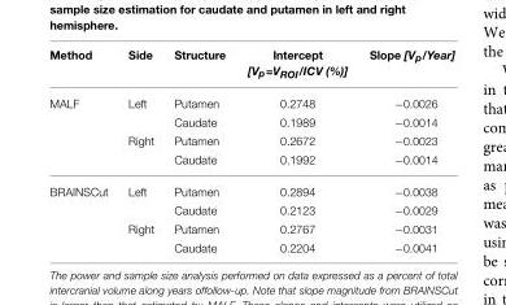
<table><thead><tr><td>Method</td><td>Side</td><td>Structure</td><td>Intercept [V<sub>p</sub>=V<sub>ROI</sub>/ICV (%)]</td><td>Slope [V<sub>p</sub>/Year]</td></tr></thead><tbody><tr><td rowspan="4">MALF</td><td>Left</td><td>Putamen</td><td>0.2748</td><td>−0.0026</td></tr><tr><td></td><td>Caudate</td><td>0.1989</td><td>−0.0014</td></tr><tr><td>Right</td><td>Putamen</td><td>0.2672</td><td>−0.0023</td></tr><tr><td></td><td>Caudate</td><td>0.1992</td><td>−0.0014</td></tr><tr><td rowspan="4">BRAINSCut</td><td>Left</td><td>Putamen</td><td>0.2894</td><td>−0.0038</td></tr><tr><td></td><td>Caudate</td><td>0.2123</td><td>−0.0029</td></tr><tr><td>Right</td><td>Putamen</td><td>0.2767</td><td>−0.0031</td></tr><tr><td></td><td>Caudate</td><td>0.2204</td><td>−0.0041</td></tr></tbody></table>